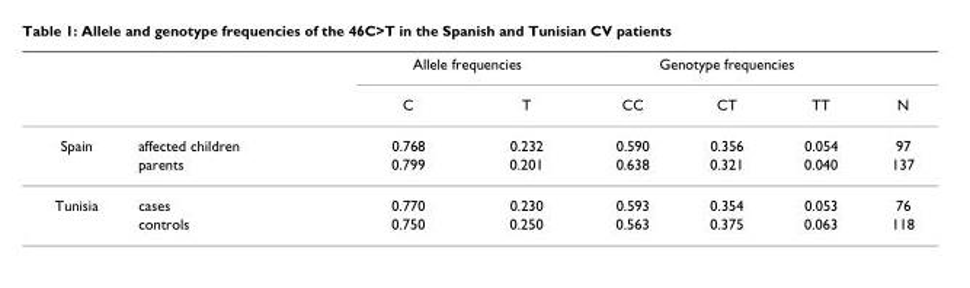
<table><thead><tr><td rowspan="2"></td><td rowspan="2"></td><td colspan="2">Allele frequencies</td><td colspan="3">Genotype frequencies</td><td rowspan="2">N</td></tr><tr><td>C</td><td>T</td><td>CC</td><td>CT</td><td>TT</td></tr></thead><tbody><tr><td rowspan="2">Spain</td><td>affected children</td><td>0.768</td><td>0.232</td><td>0.590</td><td>0.356</td><td>0.054</td><td>97</td></tr><tr><td>parents</td><td>0.799</td><td>0.201</td><td>0.638</td><td>0.321</td><td>0.040</td><td>137</td></tr><tr><td rowspan="2">Tunisia</td><td>cases</td><td>0.770</td><td>0.230</td><td>0.593</td><td>0.354</td><td>0.053</td><td>76</td></tr><tr><td>controls</td><td>0.750</td><td>0.250</td><td>0.563</td><td>0.375</td><td>0.063</td><td>118</td></tr></tbody></table>